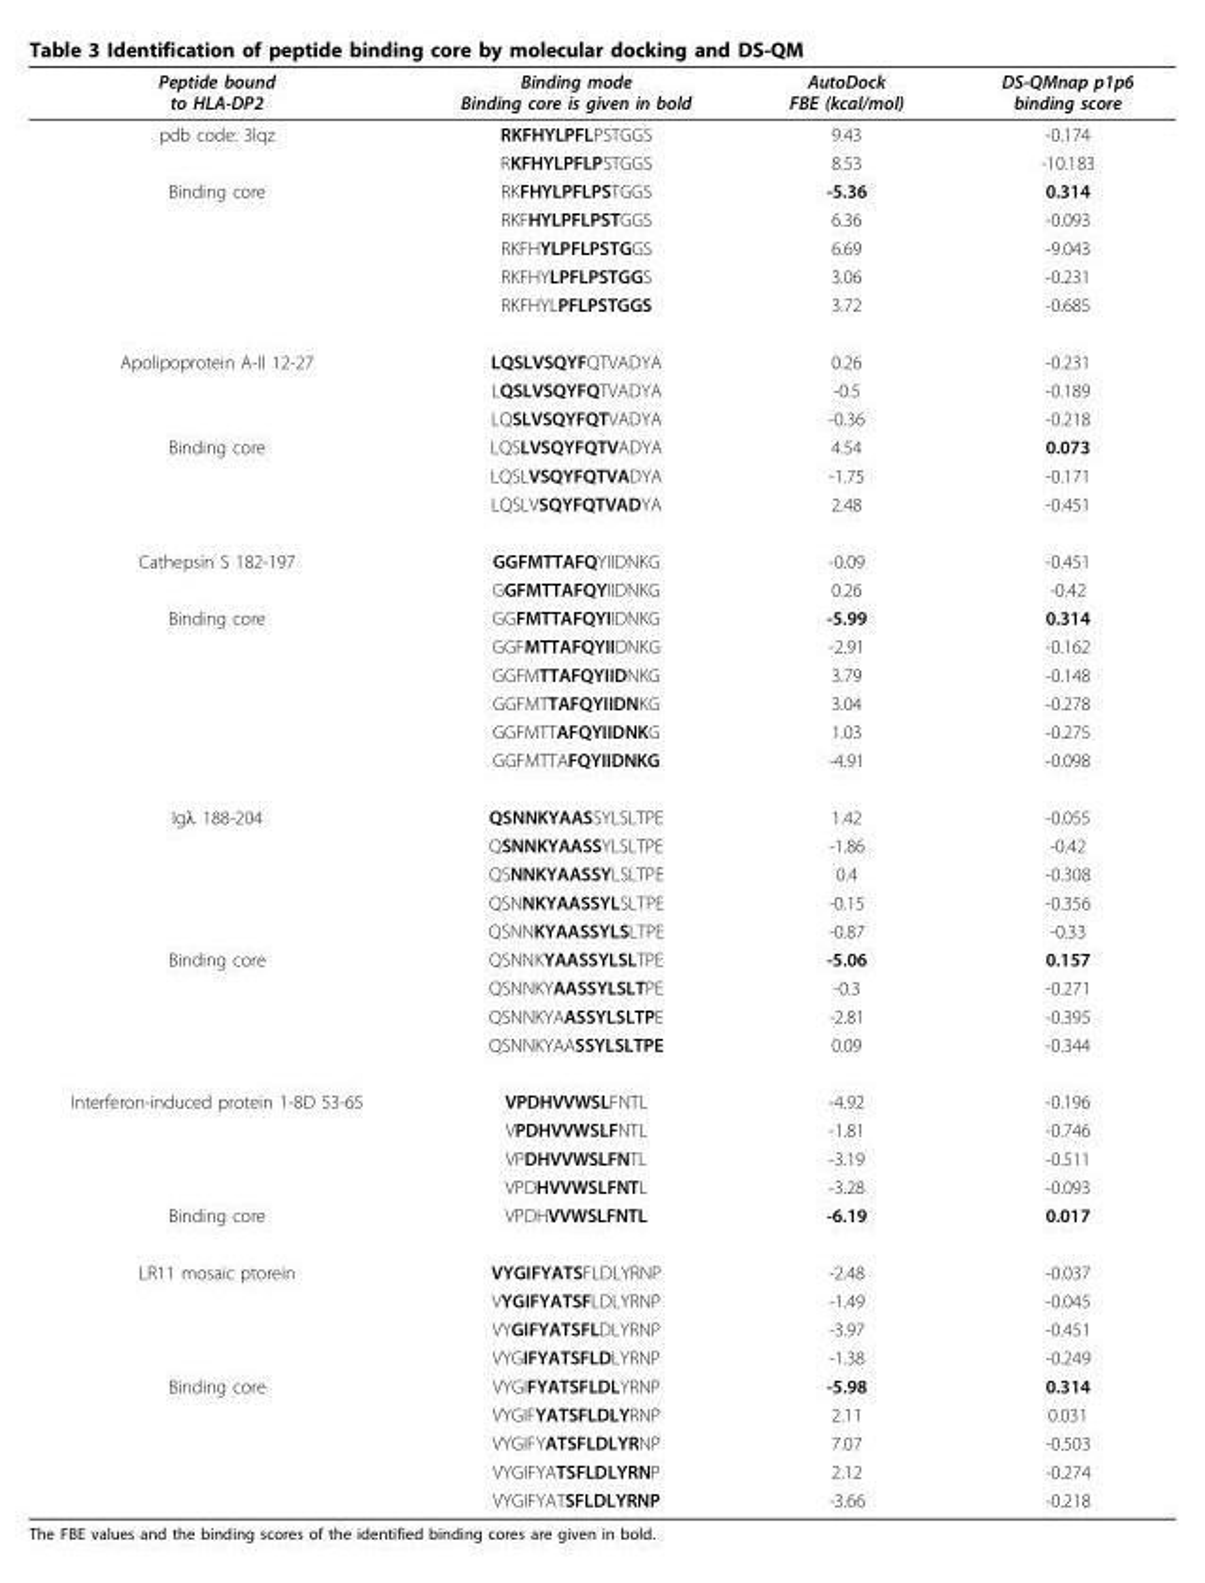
<table><thead><tr><td>Peptide bound to HLA-DP2</td><td>Binding mode Binding core is given in bold</td><td>AutoDock FBE (kcal/mol)</td><td>DS-QMnap p1p6 binding score</td></tr></thead><tbody><tr><td rowspan="2">pdb code: 3lqz</td><td>RKFHYLPFLPSTGGS</td><td>9.43</td><td>-0.174</td></tr><tr><td>RKFHYLPFLPSTGGS</td><td>8.53</td><td>-10.183</td></tr><tr><td rowspan="5">Binding core</td><td>RKFHYLPFLPSTGGS</td><td>-5.36</td><td>0.314</td></tr><tr><td>RKFHYLPFLPSTGGS</td><td>6.36</td><td>-0.093</td></tr><tr><td>RKFHYLPFLPSTGGS</td><td>6.69</td><td>-9.043</td></tr><tr><td>RKFHYLPFLPSTGGS</td><td>3.06</td><td>-0.231</td></tr><tr><td>RKFHYLPFLPSTGGS</td><td>3.72</td><td>-0.685</td></tr><tr><td rowspan="3">Apolipoprotein A-II 12-27</td><td>LQSLVSQYFQTVADYA</td><td>0.26</td><td>-0.231</td></tr><tr><td>LQSLVSQYFQTVADYA</td><td>-0.5</td><td>-0.189</td></tr><tr><td>LQSLVSQYFQTVADYA</td><td>-0.36</td><td>-0.218</td></tr><tr><td rowspan="3">Binding core</td><td>LQSLVSQYFQTVADYA</td><td>4.54</td><td>0.073</td></tr><tr><td>LQSLVSQYFQTVADYA</td><td>-1.75</td><td>-0.171</td></tr><tr><td>LQSLVSQYFQTVADYA</td><td>2.48</td><td>-0.451</td></tr><tr><td rowspan="2">Cathepsin S 182-197</td><td>GGFMTTAFQYIIDNKG</td><td>-0.09</td><td>-0.451</td></tr><tr><td>GGFMTTAFQYIIDNKG</td><td>0.26</td><td>-0.42</td></tr><tr><td rowspan="6">Binding core</td><td>GGFMTTAFQYIIDNKG</td><td>-5.99</td><td>0.314</td></tr><tr><td>GGFMTTAFQYIIDNKG</td><td>-2.91</td><td>-0.162</td></tr><tr><td>GGFMTTAFQYIIDNKG</td><td>3.79</td><td>-0.148</td></tr><tr><td>GGFMTTAFQYIIDNKG</td><td>3.04</td><td>-0.278</td></tr><tr><td>GGFMTTAFQYIIDNKG</td><td>1.03</td><td>-0.275</td></tr><tr><td>GGFMTTAFQYIIDNKG</td><td>-4.91</td><td>-0.098</td></tr><tr><td rowspan="5">Igλ 188-204</td><td>QSNNKYAASSYLSLTPE</td><td>1.42</td><td>-0.055</td></tr><tr><td>QSNNKYAASSYLSLTPE</td><td>-1.86</td><td>-0.42</td></tr><tr><td>QSNNKYAASSYLSLTPE</td><td>0.4</td><td>-0.308</td></tr><tr><td>QSNNKYAASSYLSLTPE</td><td>-0.15</td><td>-0.356</td></tr><tr><td>QSNNKYAASSYLSLTPE</td><td>-0.87</td><td>-0.33</td></tr><tr><td rowspan="4">Binding core</td><td>QSNNKYAASSYLSLTPE</td><td>-5.06</td><td>0.157</td></tr><tr><td>QSNNKYAASSYLSLTPE</td><td>-0.3</td><td>-0.271</td></tr><tr><td>QSNNKYAASSYLSLTPE</td><td>-2.81</td><td>-0.395</td></tr><tr><td>QSNNKYAASSYLSLTPE</td><td>0.09</td><td>-0.344</td></tr><tr><td rowspan="4">Interferon-induced protein 1-8D 53-65</td><td>VPDHVVWSLFNTL</td><td>-4.92</td><td>-0.196</td></tr><tr><td>VPDHVVWSLFNTL</td><td>-1.81</td><td>-0.746</td></tr><tr><td>VPDHVVWSLFNTL</td><td>-3.19</td><td>-0.511</td></tr><tr><td>VPDHVVWSLFNTL</td><td>-3.28</td><td>-0.093</td></tr><tr><td>Binding core</td><td>VPDHVVWSLFNTL</td><td>-6.19</td><td>0.017</td></tr><tr><td rowspan="4">LR11 mosaic ptorein</td><td>VYGIFYATSFLDLYRNP</td><td>-2.48</td><td>-0.037</td></tr><tr><td>VYGIFYATSFLDLYRNP</td><td>-1.49</td><td>-0.045</td></tr><tr><td>VYGIFYATSFLDLYRNP</td><td>-3.97</td><td>-0.451</td></tr><tr><td>VYGIFYATSFLDLYRNP</td><td>-1.38</td><td>-0.249</td></tr><tr><td rowspan="5">Binding core</td><td>VYGIFYATSFLDLYRNP</td><td>-5.98</td><td>0.314</td></tr><tr><td>VYGIFYATSFLDLYRNP</td><td>2.11</td><td>0.031</td></tr><tr><td>VYGIFYATSFLDLYRNP</td><td>7.07</td><td>-0.503</td></tr><tr><td>VYGIFYATSFLDLYRNP</td><td>2.12</td><td>-0.274</td></tr><tr><td>VYGIFYATSFLDLYRNP</td><td>-3.66</td><td>-0.218</td></tr></tbody></table>